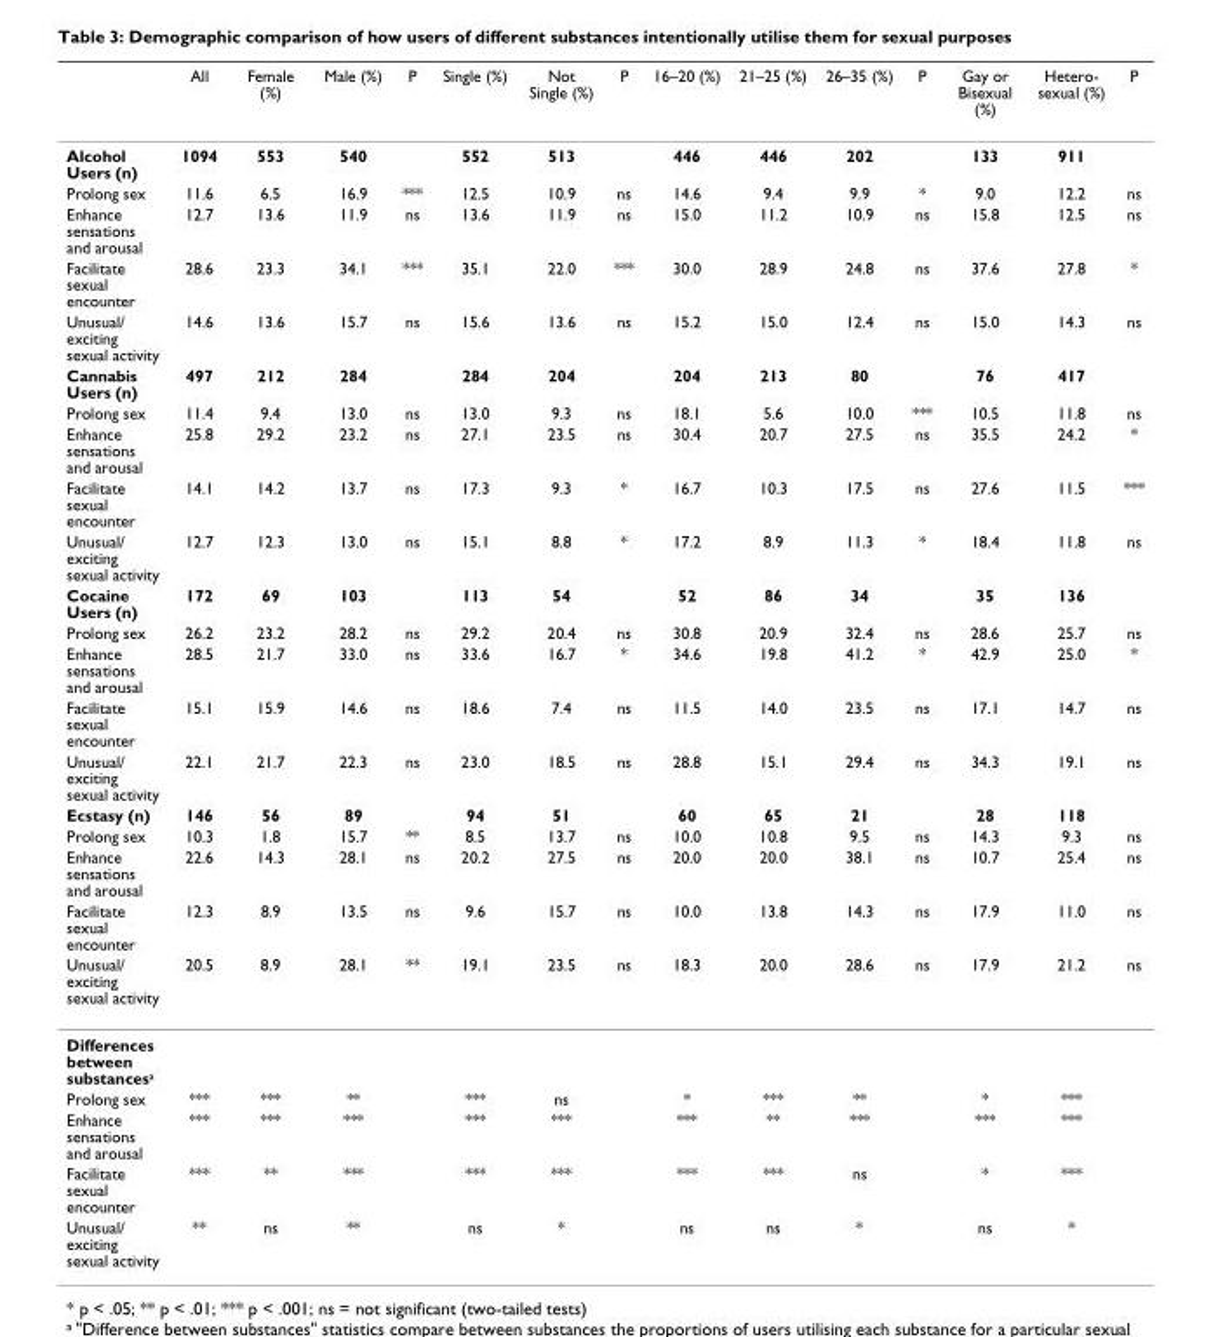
<table><thead><tr><td></td><td>All</td><td>Female (%)</td><td>Male (%)</td><td>P</td><td>Single (%)</td><td>Not Single (%)</td><td>P</td><td>16–20 (%)</td><td>21–25 (%)</td><td>26–35 (%)</td><td>P</td><td>Gay or Bisexual (%)</td><td>Hetero- sexual (%)</td><td>P</td></tr></thead><tbody><tr><td>Alcohol Users (n)</td><td>1094</td><td>553</td><td>540</td><td></td><td>552</td><td>513</td><td></td><td>446</td><td>446</td><td>202</td><td></td><td>133</td><td>911</td><td></td></tr><tr><td>Prolong sex</td><td>11.6</td><td>6.5</td><td>16.9</td><td>***</td><td>12.5</td><td>10.9</td><td>ns</td><td>14.6</td><td>9.4</td><td>9.9</td><td>*</td><td>9.0</td><td>12.2</td><td>ns</td></tr><tr><td>Enhance sensations and arousal</td><td>12.7</td><td>13.6</td><td>11.9</td><td>ns</td><td>13.6</td><td>11.9</td><td>ns</td><td>15.0</td><td>11.2</td><td>10.9</td><td>ns</td><td>15.8</td><td>12.5</td><td>ns</td></tr><tr><td>Facilitate sexual encounter</td><td>28.6</td><td>23.3</td><td>34.1</td><td>***</td><td>35.1</td><td>22.0</td><td>***</td><td>30.0</td><td>28.9</td><td>24.8</td><td>ns</td><td>37.6</td><td>27.8</td><td>*</td></tr><tr><td>Unusual/ exciting sexual activity</td><td>14.6</td><td>13.6</td><td>15.7</td><td>ns</td><td>15.6</td><td>13.6</td><td>ns</td><td>15.2</td><td>15.0</td><td>12.4</td><td>ns</td><td>15.0</td><td>14.3</td><td>ns</td></tr><tr><td>Cannabis Users (n)</td><td>497</td><td>212</td><td>284</td><td></td><td>284</td><td>204</td><td></td><td>204</td><td>213</td><td>80</td><td></td><td>76</td><td>417</td><td></td></tr><tr><td>Prolong sex</td><td>11.4</td><td>9.4</td><td>13.0</td><td>ns</td><td>13.0</td><td>9.3</td><td>ns</td><td>18.1</td><td>5.6</td><td>10.0</td><td>***</td><td>10.5</td><td>11.8</td><td>ns</td></tr><tr><td>Enhance sensations and arousal</td><td>25.8</td><td>29.2</td><td>23.2</td><td>ns</td><td>27.1</td><td>23.5</td><td>ns</td><td>30.4</td><td>20.7</td><td>27.5</td><td>ns</td><td>35.5</td><td>24.2</td><td>*</td></tr><tr><td>Facilitate sexual encounter</td><td>14.1</td><td>14.2</td><td>13.7</td><td>ns</td><td>17.3</td><td>9.3</td><td>*</td><td>16.7</td><td>10.3</td><td>17.5</td><td>ns</td><td>27.6</td><td>11.5</td><td>***</td></tr><tr><td>Unusual/ exciting sexual activity</td><td>12.7</td><td>12.3</td><td>13.0</td><td>ns</td><td>15.1</td><td>8.8</td><td>*</td><td>17.2</td><td>8.9</td><td>11.3</td><td>*</td><td>18.4</td><td>11.8</td><td>ns</td></tr><tr><td>Cocaine Users (n)</td><td>172</td><td>69</td><td>103</td><td></td><td>113</td><td>54</td><td></td><td>52</td><td>86</td><td>34</td><td></td><td>35</td><td>136</td><td></td></tr><tr><td>Prolong sex</td><td>26.2</td><td>23.2</td><td>28.2</td><td>ns</td><td>29.2</td><td>20.4</td><td>ns</td><td>30.8</td><td>20.9</td><td>32.4</td><td>ns</td><td>28.6</td><td>25.7</td><td>ns</td></tr><tr><td>Enhance sensations and arousal</td><td>28.5</td><td>21.7</td><td>33.0</td><td>ns</td><td>33.6</td><td>16.7</td><td>*</td><td>34.6</td><td>19.8</td><td>41.2</td><td>*</td><td>42.9</td><td>25.0</td><td>*</td></tr><tr><td>Facilitate sexual encounter</td><td>15.1</td><td>15.9</td><td>14.6</td><td>ns</td><td>18.6</td><td>7.4</td><td>ns</td><td>11.5</td><td>14.0</td><td>23.5</td><td>ns</td><td>17.1</td><td>14.7</td><td>ns</td></tr><tr><td>Unusual/ exciting sexual activity</td><td>22.1</td><td>21.7</td><td>22.3</td><td>ns</td><td>23.0</td><td>18.5</td><td>ns</td><td>28.8</td><td>15.1</td><td>29.4</td><td>ns</td><td>34.3</td><td>19.1</td><td>ns</td></tr><tr><td>Ecstasy (n)</td><td>146</td><td>56</td><td>89</td><td></td><td>94</td><td>51</td><td></td><td>60</td><td>65</td><td>21</td><td></td><td>28</td><td>118</td><td></td></tr><tr><td>Prolong sex</td><td>10.3</td><td>1.8</td><td>15.7</td><td>**</td><td>8.5</td><td>13.7</td><td>ns</td><td>10.0</td><td>10.8</td><td>9.5</td><td>ns</td><td>14.3</td><td>9.3</td><td>ns</td></tr><tr><td>Enhance sensations and arousal</td><td>22.6</td><td>14.3</td><td>28.1</td><td>ns</td><td>20.2</td><td>27.5</td><td>ns</td><td>20.0</td><td>20.0</td><td>38.1</td><td>ns</td><td>10.7</td><td>25.4</td><td>ns</td></tr><tr><td>Facilitate sexual encounter</td><td>12.3</td><td>8.9</td><td>13.5</td><td>ns</td><td>9.6</td><td>15.7</td><td>ns</td><td>10.0</td><td>13.8</td><td>14.3</td><td>ns</td><td>17.9</td><td>11.0</td><td>ns</td></tr><tr><td>Unusual/ exciting sexual activity</td><td>20.5</td><td>8.9</td><td>28.1</td><td>**</td><td>19.1</td><td>23.5</td><td>ns</td><td>18.3</td><td>20.0</td><td>28.6</td><td>ns</td><td>17.9</td><td>21.2</td><td>ns</td></tr><tr><td colspan="15">Differences between substances<sup>a</sup></td></tr><tr><td>Prolong sex</td><td>***</td><td>***</td><td>**</td><td></td><td>***</td><td>ns</td><td></td><td>*</td><td>***</td><td>**</td><td></td><td>*</td><td>***</td><td></td></tr><tr><td>Enhance sensations and arousal</td><td>***</td><td>***</td><td>***</td><td></td><td>***</td><td>***</td><td></td><td>***</td><td>**</td><td>***</td><td></td><td>***</td><td>***</td><td></td></tr><tr><td>Facilitate sexual encounter</td><td>***</td><td>**</td><td>***</td><td></td><td>***</td><td>***</td><td></td><td>***</td><td>***</td><td>ns</td><td></td><td>*</td><td>***</td><td></td></tr><tr><td>Unusual/ exciting sexual activity</td><td>**</td><td>ns</td><td>**</td><td></td><td>ns</td><td>*</td><td></td><td>ns</td><td>ns</td><td>*</td><td></td><td>ns</td><td>*</td><td></td></tr></tbody></table>